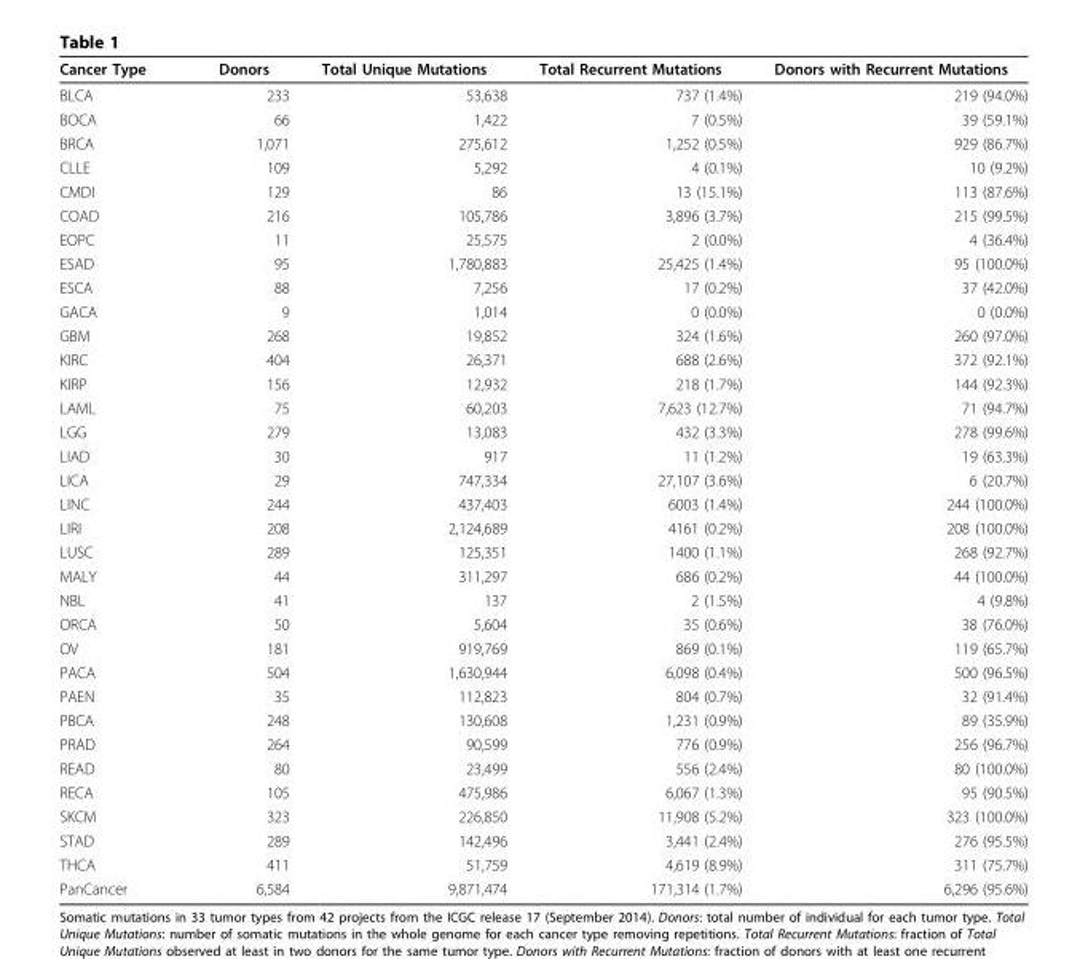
<table><thead><tr><td>Cancer Type</td><td>Donors</td><td>Total Unique Mutations</td><td>Total Recurrent Mutations</td><td>Donors with Recurrent Mutations</td></tr></thead><tbody><tr><td>BLCA</td><td>233</td><td>53,638</td><td>737 (1.4%)</td><td>219 (94.0%)</td></tr><tr><td>BOCA</td><td>66</td><td>1,422</td><td>7 (0.5%)</td><td>39 (59.1%)</td></tr><tr><td>BRCA</td><td>1,071</td><td>275,612</td><td>1,252 (0.5%)</td><td>929 (86.7%)</td></tr><tr><td>CLLE</td><td>109</td><td>5,292</td><td>4 (0.1%)</td><td>10 (9.2%)</td></tr><tr><td>CMDI</td><td>129</td><td>86</td><td>13 (15.1%)</td><td>113 (87.6%)</td></tr><tr><td>COAD</td><td>216</td><td>105,786</td><td>3,896 (3.7%)</td><td>215 (99.5%)</td></tr><tr><td>EOPC</td><td>11</td><td>25,575</td><td>2 (0.0%)</td><td>4 (36.4%)</td></tr><tr><td>ESAD</td><td>95</td><td>1,780,883</td><td>25,425 (1.4%)</td><td>95 (100.0%)</td></tr><tr><td>ESCA</td><td>88</td><td>7,256</td><td>17 (0.2%)</td><td>37 (42.0%)</td></tr><tr><td>GACA</td><td>9</td><td>1,014</td><td>0 (0.0%)</td><td>0 (0.0%)</td></tr><tr><td>GBM</td><td>268</td><td>19,852</td><td>324 (1.6%)</td><td>260 (97.0%)</td></tr><tr><td>KIRC</td><td>404</td><td>26,371</td><td>688 (2.6%)</td><td>372 (92.1%)</td></tr><tr><td>KIRP</td><td>156</td><td>12,932</td><td>218 (1.7%)</td><td>144 (92.3%)</td></tr><tr><td>LAML</td><td>75</td><td>60,203</td><td>7,623 (12.7%)</td><td>71 (94.7%)</td></tr><tr><td>LGG</td><td>279</td><td>13,083</td><td>432 (3.3%)</td><td>278 (99.6%)</td></tr><tr><td>LIAD</td><td>30</td><td>917</td><td>11 (1.2%)</td><td>19 (63.3%)</td></tr><tr><td>LICA</td><td>29</td><td>747,334</td><td>27,107 (3.6%)</td><td>6 (20.7%)</td></tr><tr><td>LINC</td><td>244</td><td>437,403</td><td>6003 (1.4%)</td><td>244 (100.0%)</td></tr><tr><td>LIRI</td><td>208</td><td>2,124,689</td><td>4161 (0.2%)</td><td>208 (100.0%)</td></tr><tr><td>LUSC</td><td>289</td><td>125,351</td><td>1400 (1.1%)</td><td>268 (92.7%)</td></tr><tr><td>MALY</td><td>44</td><td>311,297</td><td>686 (0.2%)</td><td>44 (100.0%)</td></tr><tr><td>NBL</td><td>41</td><td>137</td><td>2 (1.5%)</td><td>4 (9.8%)</td></tr><tr><td>ORCA</td><td>50</td><td>5,604</td><td>35 (0.6%)</td><td>38 (76.0%)</td></tr><tr><td>OV</td><td>181</td><td>919,769</td><td>869 (0.1%)</td><td>119 (65.7%)</td></tr><tr><td>PACA</td><td>504</td><td>1,630,944</td><td>6,098 (0.4%)</td><td>500 (96.5%)</td></tr><tr><td>PAEN</td><td>35</td><td>112,823</td><td>804 (0.7%)</td><td>32 (91.4%)</td></tr><tr><td>PBCA</td><td>248</td><td>130,608</td><td>1,231 (0.9%)</td><td>89 (35.9%)</td></tr><tr><td>PRAD</td><td>264</td><td>90,599</td><td>776 (0.9%)</td><td>256 (96.7%)</td></tr><tr><td>READ</td><td>80</td><td>23,499</td><td>556 (2.4%)</td><td>80 (100.0%)</td></tr><tr><td>RECA</td><td>105</td><td>475,986</td><td>6,067 (1.3%)</td><td>95 (90.5%)</td></tr><tr><td>SKCM</td><td>323</td><td>226,850</td><td>11,908 (5.2%)</td><td>323 (100.0%)</td></tr><tr><td>STAD</td><td>289</td><td>142,496</td><td>3,441 (2.4%)</td><td>276 (95.5%)</td></tr><tr><td>THCA</td><td>411</td><td>51,759</td><td>4,619 (8.9%)</td><td>311 (75.7%)</td></tr><tr><td>PanCancer</td><td>6,584</td><td>9,871,474</td><td>171,314 (1.7%)</td><td>6,296 (95.6%)</td></tr></tbody></table>